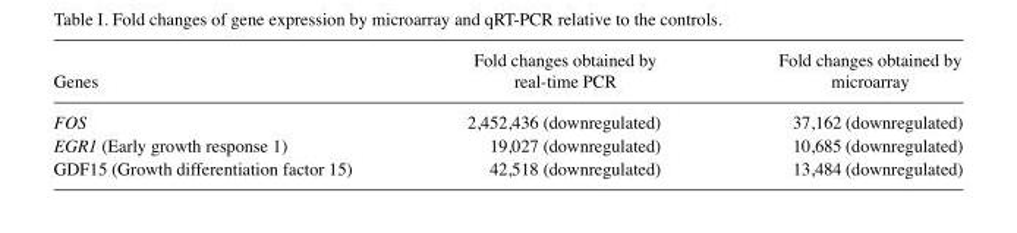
<table><thead><tr><td>Genes</td><td>Fold changes obtained by real-time PCR</td><td>Fold changes obtained by microarray</td></tr></thead><tbody><tr><td>FOS</td><td>2,452,436 (downregulated)</td><td>37,162 (downregulated)</td></tr><tr><td>EGR1 (Early growth response 1)</td><td>19,027 (downregulated)</td><td>10,685 (downregulated)</td></tr><tr><td>GDF15 (Growth differentiation factor 15)</td><td>42,518 (downregulated)</td><td>13,484 (downregulated)</td></tr></tbody></table>